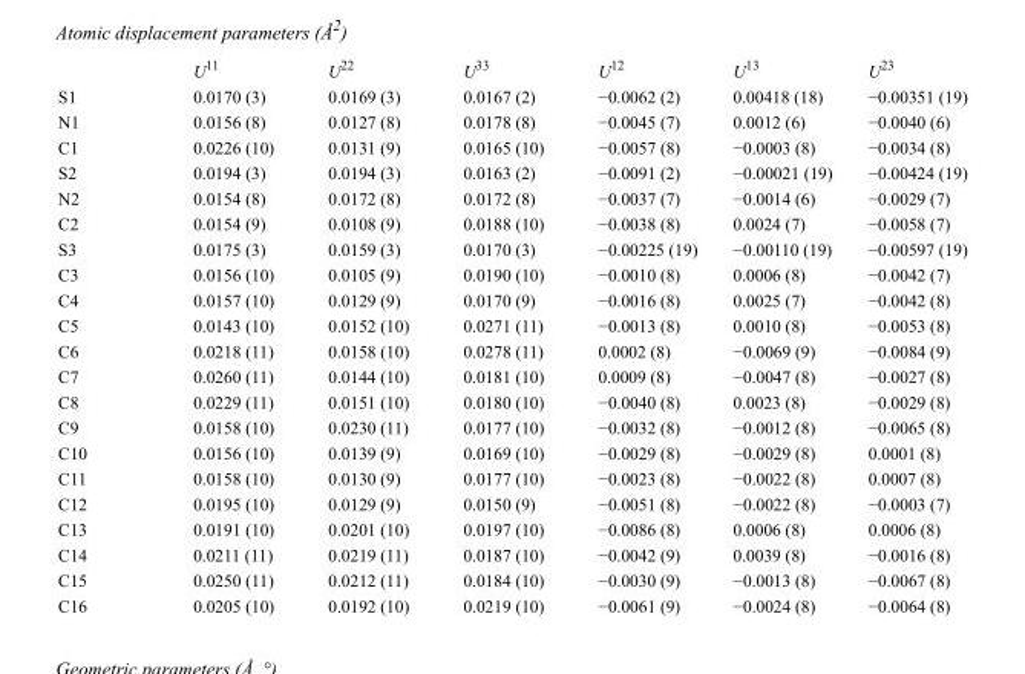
<table><thead><tr><td></td><td>U<sup>11</sup></td><td>U<sup>22</sup></td><td>U<sup>33</sup></td><td>U<sup>12</sup></td><td>U<sup>13</sup></td><td>U<sup>23</sup></td></tr></thead><tbody><tr><td>S1</td><td>0.0170 (3)</td><td>0.0169 (3)</td><td>0.0167 (2)</td><td>−0.0062 (2)</td><td>0.00418 (18)</td><td>−0.00351 (19)</td></tr><tr><td>N1</td><td>0.0156 (8)</td><td>0.0127 (8)</td><td>0.0178 (8)</td><td>−0.0045 (7)</td><td>0.0012 (6)</td><td>−0.0040 (6)</td></tr><tr><td>C1</td><td>0.0226 (10)</td><td>0.0131 (9)</td><td>0.0165 (10)</td><td>−0.0057 (8)</td><td>−0.0003 (8)</td><td>−0.0034 (8)</td></tr><tr><td>S2</td><td>0.0194 (3)</td><td>0.0194 (3)</td><td>0.0163 (2)</td><td>−0.0091 (2)</td><td>−0.00021 (19)</td><td>−0.00424 (19)</td></tr><tr><td>N2</td><td>0.0154 (8)</td><td>0.0172 (8)</td><td>0.0172 (8)</td><td>−0.0037 (7)</td><td>−0.0014 (6)</td><td>−0.0029 (7)</td></tr><tr><td>C2</td><td>0.0154 (9)</td><td>0.0108 (9)</td><td>0.0188 (10)</td><td>−0.0038 (8)</td><td>0.0024 (7)</td><td>−0.0058 (7)</td></tr><tr><td>S3</td><td>0.0175 (3)</td><td>0.0159 (3)</td><td>0.0170 (3)</td><td>−0.00225 (19)</td><td>−0.00110 (19)</td><td>−0.00597 (19)</td></tr><tr><td>C3</td><td>0.0156 (10)</td><td>0.0105 (9)</td><td>0.0190 (10)</td><td>−0.0010 (8)</td><td>0.0006 (8)</td><td>−0.0042 (7)</td></tr><tr><td>C4</td><td>0.0157 (10)</td><td>0.0129 (9)</td><td>0.0170 (9)</td><td>−0.0016 (8)</td><td>0.0025 (7)</td><td>−0.0042 (8)</td></tr><tr><td>C5</td><td>0.0143 (10)</td><td>0.0152 (10)</td><td>0.0271 (11)</td><td>−0.0013 (8)</td><td>0.0010 (8)</td><td>−0.0053 (8)</td></tr><tr><td>C6</td><td>0.0218 (11)</td><td>0.0158 (10)</td><td>0.0278 (11)</td><td>0.0002 (8)</td><td>−0.0069 (9)</td><td>−0.0084 (9)</td></tr><tr><td>C7</td><td>0.0260 (11)</td><td>0.0144 (10)</td><td>0.0181 (10)</td><td>0.0009 (8)</td><td>−0.0047 (8)</td><td>−0.0027 (8)</td></tr><tr><td>C8</td><td>0.0229 (11)</td><td>0.0151 (10)</td><td>0.0180 (10)</td><td>−0.0040 (8)</td><td>0.0023 (8)</td><td>−0.0029 (8)</td></tr><tr><td>C9</td><td>0.0158 (10)</td><td>0.0230 (11)</td><td>0.0177 (10)</td><td>−0.0032 (8)</td><td>−0.0012 (8)</td><td>−0.0065 (8)</td></tr><tr><td>C10</td><td>0.0156 (10)</td><td>0.0139 (9)</td><td>0.0169 (10)</td><td>−0.0029 (8)</td><td>−0.0029 (8)</td><td>0.0001 (8)</td></tr><tr><td>C11</td><td>0.0158 (10)</td><td>0.0130 (9)</td><td>0.0177 (10)</td><td>−0.0023 (8)</td><td>−0.0022 (8)</td><td>0.0007 (8)</td></tr><tr><td>C12</td><td>0.0195 (10)</td><td>0.0129 (9)</td><td>0.0150 (9)</td><td>−0.0051 (8)</td><td>−0.0022 (8)</td><td>−0.0003 (7)</td></tr><tr><td>C13</td><td>0.0191 (10)</td><td>0.0201 (10)</td><td>0.0197 (10)</td><td>−0.0086 (8)</td><td>0.0006 (8)</td><td>0.0006 (8)</td></tr><tr><td>C14</td><td>0.0211 (11)</td><td>0.0219 (11)</td><td>0.0187 (10)</td><td>−0.0042 (9)</td><td>0.0039 (8)</td><td>−0.0016 (8)</td></tr><tr><td>C15</td><td>0.0250 (11)</td><td>0.0212 (11)</td><td>0.0184 (10)</td><td>−0.0030 (9)</td><td>−0.0013 (8)</td><td>−0.0067 (8)</td></tr><tr><td>C16</td><td>0.0205 (10)</td><td>0.0192 (10)</td><td>0.0219 (10)</td><td>−0.0061 (9)</td><td>−0.0024 (8)</td><td>−0.0064 (8)</td></tr></tbody></table>